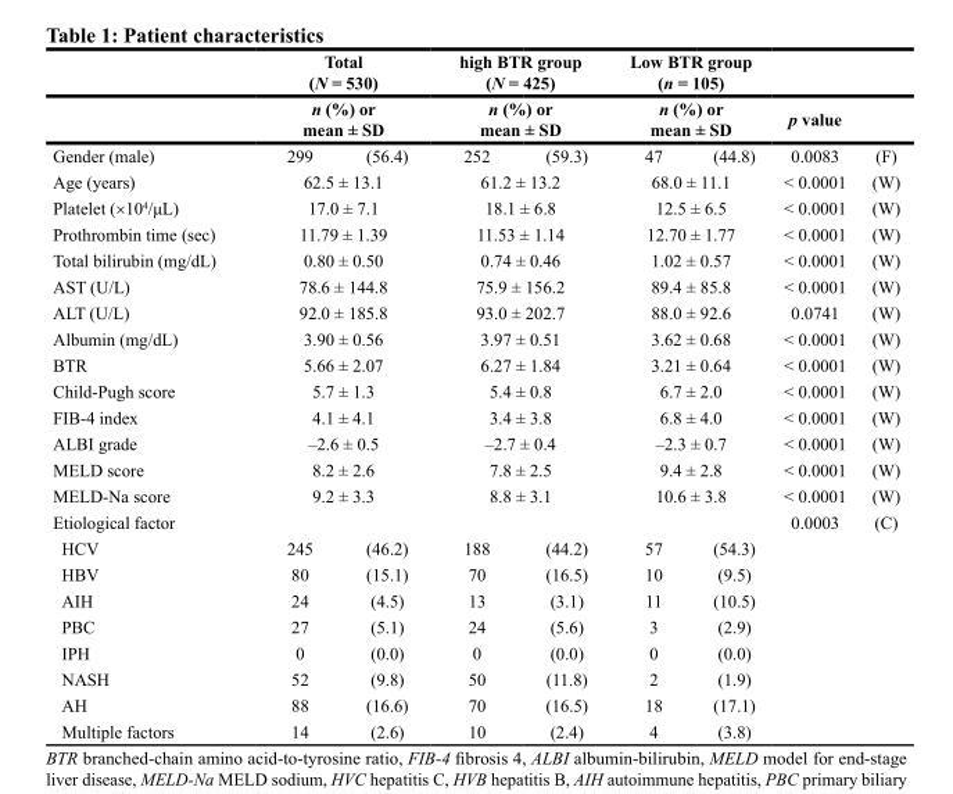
<table><thead><tr><td rowspan="3">Gender (male)</td><td rowspan="2" colspan="2">Total (N = 530) n (%) or mean ± SD</td><td rowspan="2" colspan="2">high BTR group (N = 425) n (%) or mean ± SD</td><td rowspan="2" colspan="2">Low BTR group (n = 105) n (%) or mean ± SD</td><td rowspan="3">p value 0.0083</td><td rowspan="3">(F)</td></tr><tr></tr><tr><td>299</td><td>(56.4)</td><td>252</td><td>(59.3)</td><td>47</td><td>(44.8)</td></tr></thead><tbody><tr><td>Age (years)</td><td colspan="2">62.5 ± 13.1</td><td colspan="2">61.2 ± 13.2</td><td colspan="2">68.0 ± 11.1</td><td>&lt; 0.0001</td><td>(W)</td></tr><tr><td>Platelet (×10<sup>4</sup>/μL)</td><td colspan="2">17.0 ± 7.1</td><td colspan="2">18.1 ± 6.8</td><td colspan="2">12.5 ± 6.5</td><td>&lt; 0.0001</td><td>(W)</td></tr><tr><td>Prothrombin time (sec)</td><td colspan="2">11.79 ± 1.39</td><td colspan="2">11.53 ± 1.14</td><td colspan="2">12.70 ± 1.77</td><td>&lt; 0.0001</td><td>(W)</td></tr><tr><td>Total bilirubin (mg/dL)</td><td colspan="2">0.80 ± 0.50</td><td colspan="2">0.74 ± 0.46</td><td colspan="2">1.02 ± 0.57</td><td>&lt; 0.0001</td><td>(W)</td></tr><tr><td>AST (U/L)</td><td colspan="2">78.6 ± 144.8</td><td colspan="2">75.9 ± 156.2</td><td colspan="2">89.4 ± 85.8</td><td>&lt; 0.0001</td><td>(W)</td></tr><tr><td>ALT (U/L)</td><td colspan="2">92.0 ± 185.8</td><td colspan="2">93.0 ± 202.7</td><td colspan="2">88.0 ± 92.6</td><td>0.0741</td><td>(W)</td></tr><tr><td>Albumin (mg/dL)</td><td colspan="2">3.90 ± 0.56</td><td colspan="2">3.97 ± 0.51</td><td colspan="2">3.62 ± 0.68</td><td>&lt; 0.0001</td><td>(W)</td></tr><tr><td>BTR</td><td colspan="2">5.66 ± 2.07</td><td colspan="2">6.27 ± 1.84</td><td colspan="2">3.21 ± 0.64</td><td>&lt; 0.0001</td><td>(W)</td></tr><tr><td>Child-Pugh score</td><td colspan="2">5.7 ± 1.3</td><td colspan="2">5.4 ± 0.8</td><td colspan="2">6.7 ± 2.0</td><td>&lt; 0.0001</td><td>(W)</td></tr><tr><td>FIB-4 index</td><td colspan="2">4.1 ± 4.1</td><td colspan="2">3.4 ± 3.8</td><td colspan="2">6.8 ± 4.0</td><td>&lt; 0.0001</td><td>(W)</td></tr><tr><td>ALBI grade</td><td colspan="2">–2.6 ± 0.5</td><td colspan="2">–2.7 ± 0.4</td><td colspan="2">–2.3 ± 0.7</td><td>&lt; 0.0001</td><td>(W)</td></tr><tr><td>MELD score</td><td colspan="2">8.2 ± 2.6</td><td colspan="2">7.8 ± 2.5</td><td colspan="2">9.4 ± 2.8</td><td>&lt; 0.0001</td><td>(W)</td></tr><tr><td>MELD-Na score</td><td colspan="2">9.2 ± 3.3</td><td colspan="2">8.8 ± 3.1</td><td colspan="2">10.6 ± 3.8</td><td>&lt; 0.0001</td><td>(W)</td></tr><tr><td>Etiological factor</td><td></td><td></td><td></td><td></td><td></td><td></td><td>0.0003</td><td>(C)</td></tr><tr><td>HCV</td><td>245</td><td>(46.2)</td><td>188</td><td>(44.2)</td><td>57</td><td>(54.3)</td><td></td><td></td></tr><tr><td>HBV</td><td>80</td><td>(15.1)</td><td>70</td><td>(16.5)</td><td>10</td><td>(9.5)</td><td></td><td></td></tr><tr><td>AIH</td><td>24</td><td>(4.5)</td><td>13</td><td>(3.1)</td><td>11</td><td>(10.5)</td><td></td><td></td></tr><tr><td>PBC</td><td>27</td><td>(5.1)</td><td>24</td><td>(5.6)</td><td>3</td><td>(2.9)</td><td></td><td></td></tr><tr><td>IPH</td><td>0</td><td>(0.0)</td><td>0</td><td>(0.0)</td><td>0</td><td>(0.0)</td><td></td><td></td></tr><tr><td>NASH</td><td>52</td><td>(9.8)</td><td>50</td><td>(11.8)</td><td>2</td><td>(1.9)</td><td></td><td></td></tr><tr><td>AH</td><td>88</td><td>(16.6)</td><td>70</td><td>(16.5)</td><td>18</td><td>(17.1)</td><td></td><td></td></tr><tr><td>Multiple factors</td><td>14</td><td>(2.6)</td><td>10</td><td>(2.4)</td><td>4</td><td>(3.8)</td><td></td><td></td></tr></tbody></table>